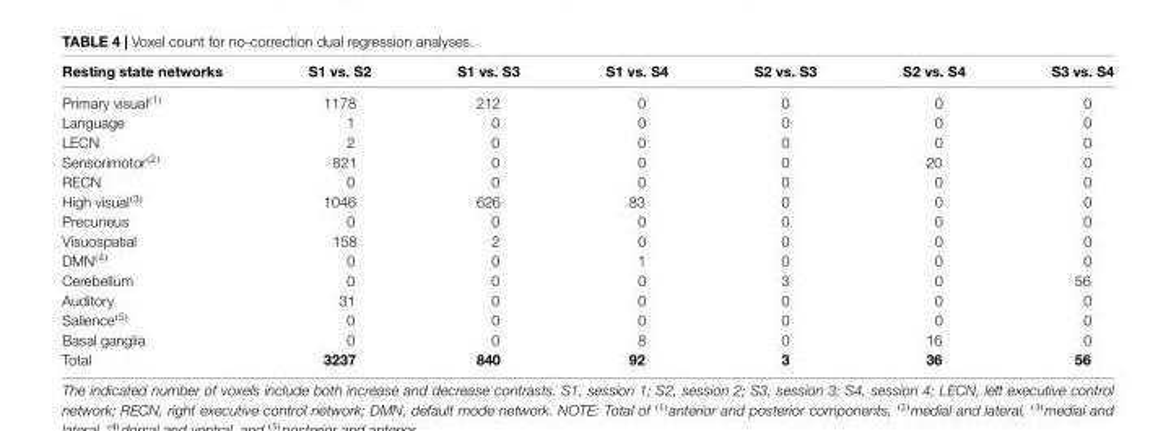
<table><thead><tr><td>Resting state networks</td><td>S1 vs. S2</td><td>S1 vs. S3</td><td>S1 vs. S4</td><td>S2 vs. S3</td><td>S2 vs. S4</td><td>S3 vs. S4</td></tr></thead><tbody><tr><td>Primary visual<sup>(1)</sup></td><td>1178</td><td>212</td><td>0</td><td>0</td><td>0</td><td>0</td></tr><tr><td>Language</td><td>1</td><td>0</td><td>0</td><td>0</td><td>0</td><td>0</td></tr><tr><td>LECN</td><td>2</td><td>0</td><td>0</td><td>0</td><td>0</td><td>0</td></tr><tr><td>Sensorimotor<sup>(2)</sup></td><td>821</td><td>0</td><td>0</td><td>0</td><td>20</td><td>0</td></tr><tr><td>RECN</td><td>0</td><td>0</td><td>0</td><td>0</td><td>0</td><td>0</td></tr><tr><td>High visual<sup>(3)</sup></td><td>1046</td><td>626</td><td>83</td><td>0</td><td>0</td><td>0</td></tr><tr><td>Precuneus</td><td>0</td><td>0</td><td>0</td><td>0</td><td>0</td><td>0</td></tr><tr><td>Visuospatial</td><td>158</td><td>2</td><td>0</td><td>0</td><td>0</td><td>0</td></tr><tr><td>DMN<sup>(4)</sup></td><td>0</td><td>0</td><td>1</td><td>0</td><td>0</td><td>0</td></tr><tr><td>Cerebellum</td><td>0</td><td>0</td><td>0</td><td>3</td><td>0</td><td>56</td></tr><tr><td>Auditory</td><td>31</td><td>0</td><td>0</td><td>0</td><td>0</td><td>0</td></tr><tr><td>Salience<sup>(5)</sup></td><td>0</td><td>0</td><td>0</td><td>0</td><td>0</td><td>0</td></tr><tr><td>Basal ganglia</td><td>0</td><td>0</td><td>8</td><td>0</td><td>16</td><td>0</td></tr><tr><td>Total</td><td>3237</td><td>840</td><td>92</td><td>3</td><td>36</td><td>56</td></tr></tbody></table>